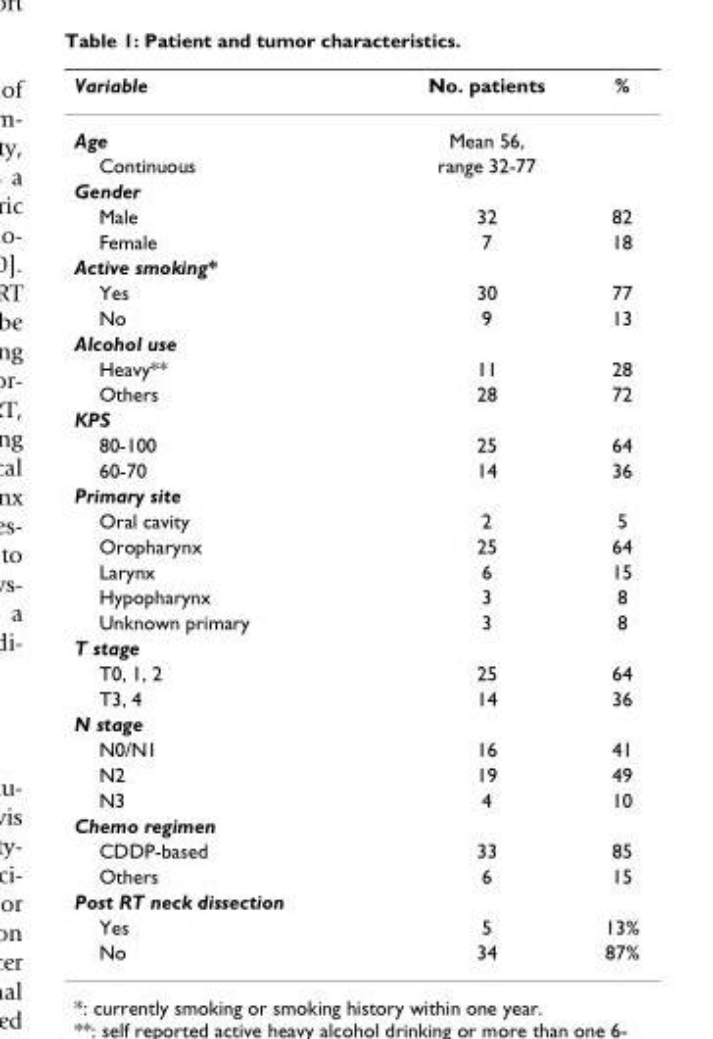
<table><thead><tr><td>Variable</td><td>No. patients</td><td>%</td></tr></thead><tbody><tr><td>Age</td><td>Mean 56,</td><td></td></tr><tr><td>Continuous</td><td>range 32-77</td><td></td></tr><tr><td colspan="3">Gender</td></tr><tr><td>Male</td><td>32</td><td>82</td></tr><tr><td>Female</td><td>7</td><td>18</td></tr><tr><td colspan="3">Active smoking*</td></tr><tr><td>Yes</td><td>30</td><td>77</td></tr><tr><td>No</td><td>9</td><td>13</td></tr><tr><td colspan="3">Alcohol use</td></tr><tr><td>Heavy**</td><td>11</td><td>28</td></tr><tr><td>Others</td><td>28</td><td>72</td></tr><tr><td colspan="3">KPS</td></tr><tr><td>80-100</td><td>25</td><td>64</td></tr><tr><td>60-70</td><td>14</td><td>36</td></tr><tr><td colspan="3">Primary site</td></tr><tr><td>Oral cavity</td><td>2</td><td>5</td></tr><tr><td>Oropharynx</td><td>25</td><td>64</td></tr><tr><td>Larynx</td><td>6</td><td>15</td></tr><tr><td>Hypopharynx</td><td>3</td><td>8</td></tr><tr><td>Unknown primary</td><td>3</td><td>8</td></tr><tr><td colspan="3">T stage</td></tr><tr><td>T0, 1, 2</td><td>25</td><td>64</td></tr><tr><td>T3, 4</td><td>14</td><td>36</td></tr><tr><td colspan="3">N stage</td></tr><tr><td>N0/N1</td><td>16</td><td>41</td></tr><tr><td>N2</td><td>19</td><td>49</td></tr><tr><td>N3</td><td>4</td><td>10</td></tr><tr><td colspan="3">Chemo regimen</td></tr><tr><td>CDDP-based</td><td>33</td><td>85</td></tr><tr><td>Others</td><td>6</td><td>15</td></tr><tr><td colspan="3">Post RT neck dissection</td></tr><tr><td>Yes</td><td>5</td><td>13%</td></tr><tr><td>No</td><td>34</td><td>87%</td></tr></tbody></table>